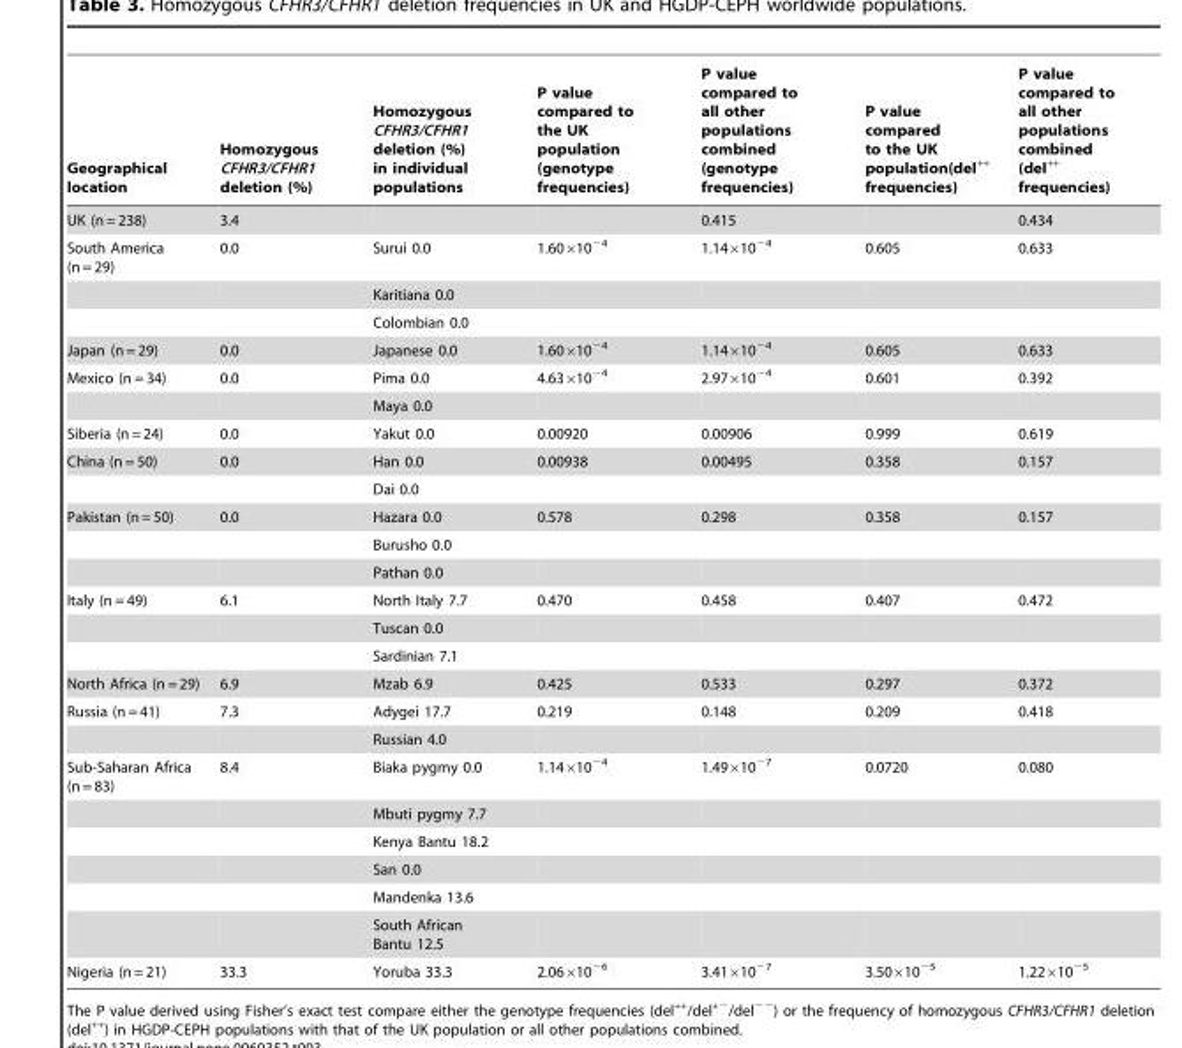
<table><thead><tr><td>Geographical location</td><td>Homozygous CFHR3/CFHR1 deletion (%)</td><td>Homozygous CFHR3/CFHR1 deletion (%) in individual populations</td><td>P value compared to the UK population (genotype frequencies)</td><td>P value compared to all other populations combined (genotype frequencies)</td><td>P value compared to the UK population(del<sup>++</sup> frequencies)</td><td>P value compared to all other populations combined (del<sup>++</sup> frequencies)</td></tr></thead><tbody><tr><td>UK (n = 238)</td><td>3.4</td><td></td><td></td><td>0.415</td><td></td><td>0.434</td></tr><tr><td rowspan="3">South America (n = 29)</td><td>0.0</td><td>Surui 0.0</td><td>1.60×10<sup>−4</sup></td><td>1.14×10<sup>−4</sup></td><td>0.605</td><td>0.633</td></tr><tr><td></td><td>Karitiana 0.0</td><td></td><td></td><td></td><td></td></tr><tr><td></td><td>Colombian 0.0</td><td></td><td></td><td></td><td></td></tr><tr><td>Japan (n = 29)</td><td>0.0</td><td>Japanese 0.0</td><td>1.60×10<sup>−4</sup></td><td>1.14×10<sup>−4</sup></td><td>0.605</td><td>0.633</td></tr><tr><td rowspan="2">Mexico (n = 34)</td><td>0.0</td><td>Pima 0.0</td><td>4.63×10<sup>−4</sup></td><td>2.97×10<sup>−4</sup></td><td>0.601</td><td>0.392</td></tr><tr><td></td><td>Maya 0.0</td><td></td><td></td><td></td><td></td></tr><tr><td>Siberia (n = 24)</td><td>0.0</td><td>Yakut 0.0</td><td>0.00920</td><td>0.00906</td><td>0.999</td><td>0.619</td></tr><tr><td rowspan="2">China (n = 50)</td><td>0.0</td><td>Han 0.0</td><td>0.00938</td><td>0.00495</td><td>0.358</td><td>0.157</td></tr><tr><td></td><td>Dai 0.0</td><td></td><td></td><td></td><td></td></tr><tr><td rowspan="3">Pakistan (n = 50)</td><td>0.0</td><td>Hazara 0.0</td><td>0.578</td><td>0.298</td><td>0.358</td><td>0.157</td></tr><tr><td></td><td>Burusho 0.0</td><td></td><td></td><td></td><td></td></tr><tr><td></td><td>Pathan 0.0</td><td></td><td></td><td></td><td></td></tr><tr><td rowspan="3">Italy (n = 49)</td><td>6.1</td><td>North Italy 7.7</td><td>0.470</td><td>0.458</td><td>0.407</td><td>0.472</td></tr><tr><td></td><td>Tuscan 0.0</td><td></td><td></td><td></td><td></td></tr><tr><td></td><td>Sardinian 7.1</td><td></td><td></td><td></td><td></td></tr><tr><td>North Africa (n = 29)</td><td>6.9</td><td>Mzab 6.9</td><td>0.425</td><td>0.533</td><td>0.297</td><td>0.372</td></tr><tr><td rowspan="2">Russia (n = 41)</td><td>7.3</td><td>Adygei 17.7</td><td>0.219</td><td>0.148</td><td>0.209</td><td>0.418</td></tr><tr><td></td><td>Russian 4.0</td><td></td><td></td><td></td><td></td></tr><tr><td rowspan="6">Sub-Saharan Africa (n = 83)</td><td>8.4</td><td>Biaka pygmy 0.0</td><td>1.14×10<sup>−4</sup></td><td>1.49×10<sup>−7</sup></td><td>0.0720</td><td>0.080</td></tr><tr><td></td><td>Mbuti pygmy 7.7</td><td></td><td></td><td></td><td></td></tr><tr><td></td><td>Kenya Bantu 18.2</td><td></td><td></td><td></td><td></td></tr><tr><td></td><td>San 0.0</td><td></td><td></td><td></td><td></td></tr><tr><td></td><td>Mandenka 13.6</td><td></td><td></td><td></td><td></td></tr><tr><td></td><td>South African Bantu 12.5</td><td></td><td></td><td></td><td></td></tr><tr><td>Nigeria (n = 21)</td><td>33.3</td><td>Yoruba 33.3</td><td>2.06×10<sup>−6</sup></td><td>3.41×10<sup>−7</sup></td><td>3.50×10<sup>−5</sup></td><td>1.22×10<sup>−5</sup></td></tr></tbody></table>